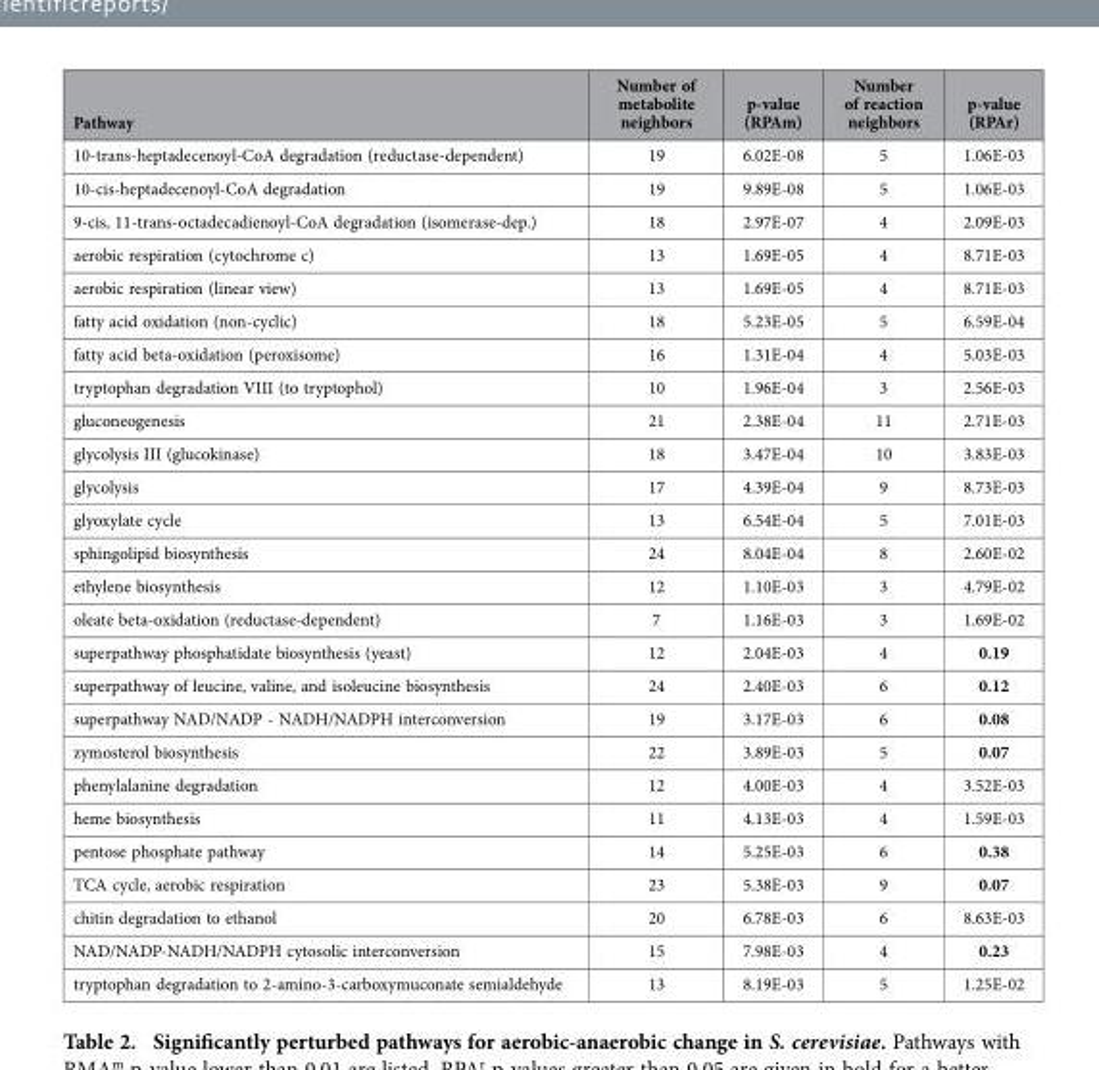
<table><thead><tr><td>Pathway</td><td>Number of metabolite neighbors</td><td>p-value (RPAm)</td><td>Number of reaction neighbors</td><td>p-value (RPAr)</td></tr></thead><tbody><tr><td>10-trans-heptadecenoyl-CoA degradation (reductase-dependent)</td><td>19</td><td>6.02E-08</td><td>5</td><td>1.06E-03</td></tr><tr><td>10-cis-heptadecenoyl-CoA degradation</td><td>19</td><td>9.89E-08</td><td>5</td><td>1.06E-03</td></tr><tr><td>9-cis, 11-trans-octadecadienoyl-CoA degradation (isomerase-dep.)</td><td>18</td><td>2.97E-07</td><td>4</td><td>2.09E-03</td></tr><tr><td>aerobic respiration (cytochrome c)</td><td>13</td><td>1.69E-05</td><td>4</td><td>8.71E-03</td></tr><tr><td>aerobic respiration (linear view)</td><td>13</td><td>1.69E-05</td><td>4</td><td>8.71E-03</td></tr><tr><td>fatty acid oxidation (non-cyclic)</td><td>18</td><td>5.23E-05</td><td>5</td><td>6.59E-04</td></tr><tr><td>fatty acid beta-oxidation (peroxisome)</td><td>16</td><td>1.31E-04</td><td>4</td><td>5.03E-03</td></tr><tr><td>tryptophan degradation VIII (to tryptophol)</td><td>10</td><td>1.96E-04</td><td>3</td><td>2.56E-03</td></tr><tr><td>gluconeogenesis</td><td>21</td><td>2.38E-04</td><td>11</td><td>2.71E-03</td></tr><tr><td>glycolysis III (glucokinase)</td><td>18</td><td>3.47E-04</td><td>10</td><td>3.83E-03</td></tr><tr><td>glycolysis</td><td>17</td><td>4.39E-04</td><td>9</td><td>8.73E-03</td></tr><tr><td>glyoxylate cycle</td><td>13</td><td>6.54E-04</td><td>5</td><td>7.01E-03</td></tr><tr><td>sphingolipid biosynthesis</td><td>24</td><td>8.04E-04</td><td>8</td><td>2.60E-02</td></tr><tr><td>ethylene biosynthesis</td><td>12</td><td>1.10E-03</td><td>3</td><td>4.79E-02</td></tr><tr><td>oleate beta-oxidation (reductase-dependent)</td><td>7</td><td>1.16E-03</td><td>3</td><td>1.69E-02</td></tr><tr><td>superpathway phosphatidate biosynthesis (yeast)</td><td>12</td><td>2.04E-03</td><td>4</td><td>0.19</td></tr><tr><td>superpathway of leucine, valine, and isoleucine biosynthesis</td><td>24</td><td>2.40E-03</td><td>6</td><td>0.12</td></tr><tr><td>superpathway NAD/NADP - NADH/NADPH interconversion</td><td>19</td><td>3.17E-03</td><td>6</td><td>0.08</td></tr><tr><td>zymosterol biosynthesis</td><td>22</td><td>3.89E-03</td><td>5</td><td>0.07</td></tr><tr><td>phenylalanine degradation</td><td>12</td><td>4.00E-03</td><td>4</td><td>3.52E-03</td></tr><tr><td>heme biosynthesis</td><td>11</td><td>4.13E-03</td><td>4</td><td>1.59E-03</td></tr><tr><td>pentose phosphate pathway</td><td>14</td><td>5.25E-03</td><td>6</td><td>0.38</td></tr><tr><td>TCA cycle, aerobic respiration</td><td>23</td><td>5.38E-03</td><td>9</td><td>0.07</td></tr><tr><td>chitin degradation to ethanol</td><td>20</td><td>6.78E-03</td><td>6</td><td>8.63E-03</td></tr><tr><td>NAD/NADP-NADH/NADPH cytosolic interconversion</td><td>15</td><td>7.98E-03</td><td>4</td><td>0.23</td></tr><tr><td>tryptophan degradation to 2-amino-3-carboxymuconate semialdehyde</td><td>13</td><td>8.19E-03</td><td>5</td><td>1.25E-02</td></tr></tbody></table>